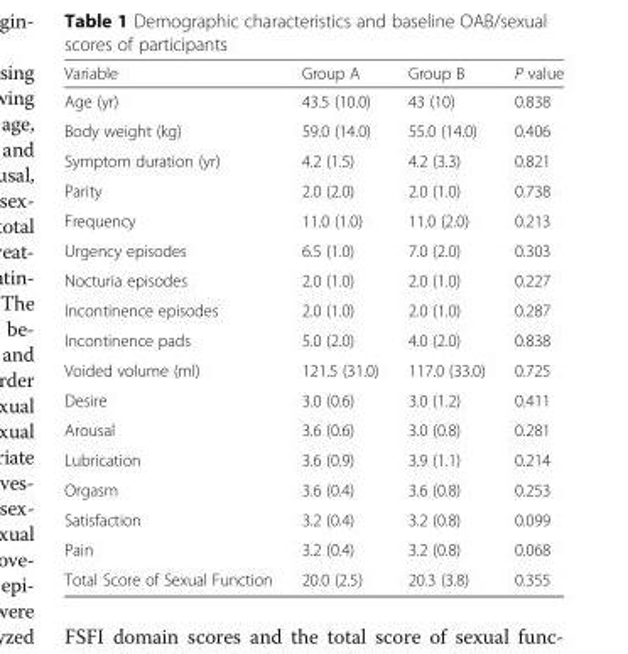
<table><thead><tr><td>Variable</td><td>Group A</td><td>Group B</td><td>P value</td></tr></thead><tbody><tr><td>Age (yr)</td><td>43.5 (10.0)</td><td>43 (10)</td><td>0.838</td></tr><tr><td>Body weight (kg)</td><td>59.0 (14.0)</td><td>55.0 (14.0)</td><td>0.406</td></tr><tr><td>Symptom duration (yr)</td><td>4.2 (1.5)</td><td>4.2 (3.3)</td><td>0.821</td></tr><tr><td>Parity</td><td>2.0 (2.0)</td><td>2.0 (1.0)</td><td>0.738</td></tr><tr><td>Frequency</td><td>11.0 (1.0)</td><td>11.0 (2.0)</td><td>0.213</td></tr><tr><td>Urgency episodes</td><td>6.5 (1.0)</td><td>7.0 (2.0)</td><td>0.303</td></tr><tr><td>Nocturia episodes</td><td>2.0 (1.0)</td><td>2.0 (1.0)</td><td>0.227</td></tr><tr><td>Incontinence episodes</td><td>2.0 (1.0)</td><td>2.0 (1.0)</td><td>0.287</td></tr><tr><td>Incontinence pads</td><td>5.0 (2.0)</td><td>4.0 (2.0)</td><td>0.838</td></tr><tr><td>Voided volume (ml)</td><td>121.5 (31.0)</td><td>117.0 (33.0)</td><td>0.725</td></tr><tr><td>Desire</td><td>3.0 (0.6)</td><td>3.0 (1.2)</td><td>0.411</td></tr><tr><td>Arousal</td><td>3.6 (0.6)</td><td>3.0 (0.8)</td><td>0.281</td></tr><tr><td>Lubrication</td><td>3.6 (0.9)</td><td>3.9 (1.1)</td><td>0.214</td></tr><tr><td>Orgasm</td><td>3.6 (0.4)</td><td>3.6 (0.8)</td><td>0.253</td></tr><tr><td>Satisfaction</td><td>3.2 (0.4)</td><td>3.2 (0.8)</td><td>0.099</td></tr><tr><td>Pain</td><td>3.2 (0.4)</td><td>3.2 (0.8)</td><td>0.068</td></tr><tr><td>Total Score of Sexual Function</td><td>20.0 (2.5)</td><td>20.3 (3.8)</td><td>0.355</td></tr></tbody></table>